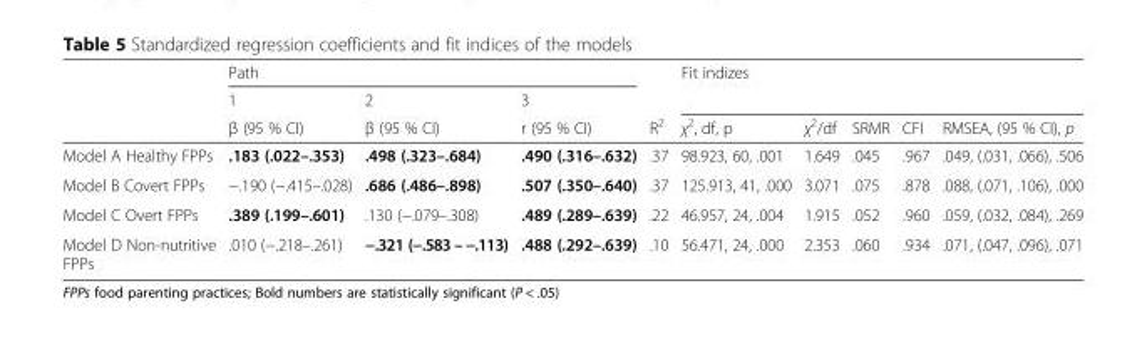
<table><thead><tr><td rowspan="3"></td><td colspan="3">Path</td><td rowspan="3">R<sup>2</sup></td><td rowspan="2" colspan="5">Fit indizes</td></tr><tr><td rowspan="2">1 β (95 % CI)</td><td rowspan="2">2 β (95 % CI)</td><td rowspan="2">3 r (95 % CI)</td></tr><tr><td>χ<sup>2</sup>, df, p</td><td>χ<sup>2</sup>/df</td><td>SRMR</td><td>CFI</td><td>RMSEA, (95 % CI), p</td></tr></thead><tbody><tr><td>Model A Healthy FPPs</td><td>.183 (.022–.353)</td><td>.498 (.323–.684)</td><td>.490 (.316–.632)</td><td>.37</td><td>98.923, 60, .001</td><td>1.649</td><td>.045</td><td>.967</td><td>.049, (.031, .066), .506</td></tr><tr><td>Model B Covert FPPs</td><td>−.190 (−.415–.028)</td><td>.686 (.486–.898)</td><td>.507 (.350–.640)</td><td>.37</td><td>125.913, 41, .000</td><td>3.071</td><td>.075</td><td>.878</td><td>.088, (.071, .106), .000</td></tr><tr><td>Model C Overt FPPs</td><td>.389 (.199–.601)</td><td>.130 (−.079–.308)</td><td>.489 (.289–.639)</td><td>.22</td><td>46.957, 24, .004</td><td>1.915</td><td>.052</td><td>.960</td><td>.059, (.032, .084), .269</td></tr><tr><td>Model D Non-nutritive FPPs</td><td>.010 (−.218–.261)</td><td>−.321 (−.583 – −.113)</td><td>.488 (.292–.639)</td><td>.10</td><td>56.471, 24, .000</td><td>2.353</td><td>.060</td><td>.934</td><td>.071, (.047, .096), .071</td></tr></tbody></table>